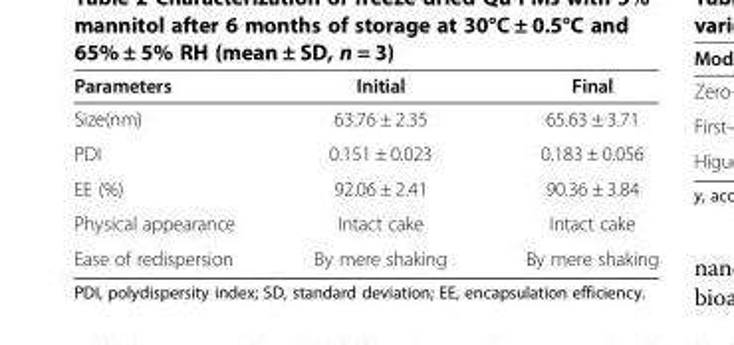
<table><thead><tr><td>Parameters</td><td>Initial</td><td>Final</td></tr></thead><tbody><tr><td>Size(nm)</td><td>63.76 ± 2.35</td><td>65.63 ± 3.71</td></tr><tr><td>PDI</td><td>0.151 ± 0.023</td><td>0.183 ± 0.056</td></tr><tr><td>EE (%)</td><td>92.06 ± 2.41</td><td>90.36 ± 3.84</td></tr><tr><td>Physical appearance</td><td>Intact cake</td><td>Intact cake</td></tr><tr><td>Ease of redispersion</td><td>By mere shaking</td><td>By mere shaking</td></tr></tbody></table>